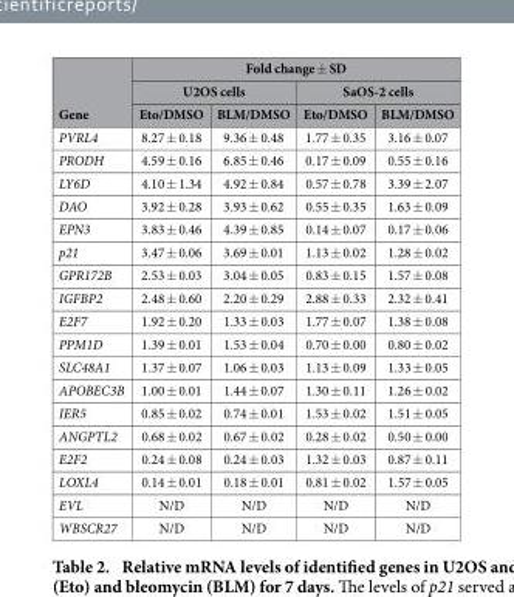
<table><thead><tr><td rowspan="3">Gene</td><td colspan="4">Fold change ± SD</td></tr><tr><td colspan="2">U2OS cells</td><td colspan="2">SaOS-2 cells</td></tr><tr><td>Eto/DMSO</td><td>BLM/DMSO</td><td>Eto/DMSO</td><td>BLM/DMSO</td></tr></thead><tbody><tr><td>PVRL4</td><td>8.27 ± 0.18</td><td>9.36 ± 0.48</td><td>1.77 ± 0.35</td><td>3.16 ± 0.07</td></tr><tr><td>PRODH</td><td>4.59 ± 0.16</td><td>6.85 ± 0.46</td><td>0.17 ± 0.09</td><td>0.55 ± 0.16</td></tr><tr><td>LY6D</td><td>4.10 ± 1.34</td><td>4.92 ± 0.84</td><td>0.57 ± 0.78</td><td>3.39 ± 2.07</td></tr><tr><td>DAO</td><td>3.92 ± 0.28</td><td>3.93 ± 0.62</td><td>0.55 ± 0.35</td><td>1.63 ± 0.09</td></tr><tr><td>EPN3</td><td>3.83 ± 0.46</td><td>4.39 ± 0.85</td><td>0.14 ± 0.07</td><td>0.17 ± 0.06</td></tr><tr><td>p21</td><td>3.47 ± 0.06</td><td>3.69 ± 0.01</td><td>1.13 ± 0.02</td><td>1.28 ± 0.02</td></tr><tr><td>GPR172B</td><td>2.53 ± 0.03</td><td>3.04 ± 0.05</td><td>0.83 ± 0.15</td><td>1.57 ± 0.08</td></tr><tr><td>IGFBP2</td><td>2.48 ± 0.60</td><td>2.20 ± 0.29</td><td>2.88 ± 0.33</td><td>2.32 ± 0.41</td></tr><tr><td>E2F7</td><td>1.92 ± 0.20</td><td>1.33 ± 0.03</td><td>1.77 ± 0.07</td><td>1.38 ± 0.08</td></tr><tr><td>PPM1D</td><td>1.39 ± 0.01</td><td>1.53 ± 0.04</td><td>0.70 ± 0.00</td><td>0.80 ± 0.02</td></tr><tr><td>SLC48A1</td><td>1.37 ± 0.07</td><td>1.06 ± 0.03</td><td>1.13 ± 0.09</td><td>1.33 ± 0.05</td></tr><tr><td>APOBEC3B</td><td>1.00 ± 0.01</td><td>1.44 ± 0.07</td><td>1.30 ± 0.11</td><td>1.26 ± 0.02</td></tr><tr><td>IER5</td><td>0.85 ± 0.02</td><td>0.74 ± 0.01</td><td>1.53 ± 0.02</td><td>1.51 ± 0.05</td></tr><tr><td>ANGPTL2</td><td>0.68 ± 0.02</td><td>0.67 ± 0.02</td><td>0.28 ± 0.02</td><td>0.50 ± 0.00</td></tr><tr><td>E2F2</td><td>0.24 ± 0.08</td><td>0.24 ± 0.03</td><td>1.32 ± 0.03</td><td>0.87 ± 0.11</td></tr><tr><td>LOXL4</td><td>0.14 ± 0.01</td><td>0.18 ± 0.01</td><td>0.81 ± 0.02</td><td>1.57 ± 0.05</td></tr><tr><td>EVL</td><td>N/D</td><td>N/D</td><td>N/D</td><td>N/D</td></tr><tr><td>WBSCR27</td><td>N/D</td><td>N/D</td><td>N/D</td><td>N/D</td></tr></tbody></table>